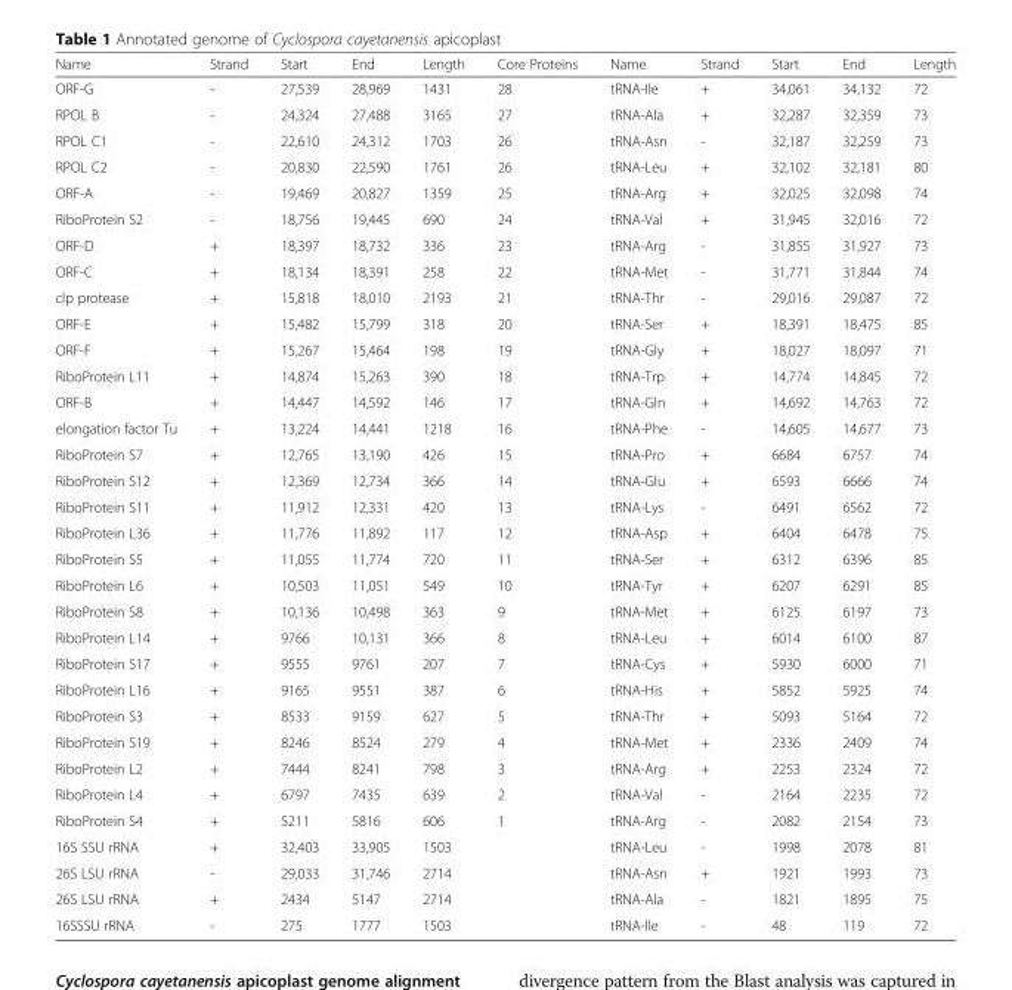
<table><thead><tr><td>Name</td><td>Strand</td><td>Start</td><td>End</td><td>Length</td><td>Core Proteins</td><td>Name</td><td>Strand</td><td>Start</td><td>End</td><td>Length</td></tr></thead><tbody><tr><td>ORF-G</td><td>-</td><td>27,539</td><td>28,969</td><td>1431</td><td>28</td><td>tRNA-Ile</td><td>+</td><td>34,061</td><td>34,132</td><td>72</td></tr><tr><td>RPOL B</td><td>-</td><td>24,324</td><td>27,488</td><td>3165</td><td>27</td><td>tRNA-Ala</td><td>+</td><td>32,287</td><td>32,359</td><td>73</td></tr><tr><td>RPOL C1</td><td>-</td><td>22,610</td><td>24,312</td><td>1703</td><td>26</td><td>tRNA-Asn</td><td>-</td><td>32,187</td><td>32,259</td><td>73</td></tr><tr><td>RPOL C2</td><td>-</td><td>20,830</td><td>22,590</td><td>1761</td><td>26</td><td>tRNA-Leu</td><td>+</td><td>32,102</td><td>32,181</td><td>80</td></tr><tr><td>ORF-A</td><td>-</td><td>19,469</td><td>20,827</td><td>1359</td><td>25</td><td>tRNA-Arg</td><td>+</td><td>32,025</td><td>32,098</td><td>74</td></tr><tr><td>RiboProtein S2</td><td>-</td><td>18,756</td><td>19,445</td><td>690</td><td>24</td><td>tRNA-Val</td><td>+</td><td>31,945</td><td>32,016</td><td>72</td></tr><tr><td>ORF-D</td><td>+</td><td>18,397</td><td>18,732</td><td>336</td><td>23</td><td>tRNA-Arg</td><td>-</td><td>31,855</td><td>31,927</td><td>73</td></tr><tr><td>ORF-C</td><td>+</td><td>18,134</td><td>18,391</td><td>258</td><td>22</td><td>tRNA-Met</td><td>-</td><td>31,771</td><td>31,844</td><td>74</td></tr><tr><td>clp protease</td><td>+</td><td>15,818</td><td>18,010</td><td>2193</td><td>21</td><td>tRNA-Thr</td><td>-</td><td>29,016</td><td>29,087</td><td>72</td></tr><tr><td>ORF-E</td><td>+</td><td>15,482</td><td>15,799</td><td>318</td><td>20</td><td>tRNA-Ser</td><td>+</td><td>18,391</td><td>18,475</td><td>85</td></tr><tr><td>ORF-F</td><td>+</td><td>15,267</td><td>15,464</td><td>198</td><td>19</td><td>tRNA-Gly</td><td>+</td><td>18,027</td><td>18,097</td><td>71</td></tr><tr><td>RiboProtein L11</td><td>+</td><td>14,874</td><td>15,263</td><td>390</td><td>18</td><td>tRNA-Trp</td><td>+</td><td>14,774</td><td>14,845</td><td>72</td></tr><tr><td>ORF-B</td><td>+</td><td>14,447</td><td>14,592</td><td>146</td><td>17</td><td>tRNA-Gln</td><td>+</td><td>14,692</td><td>14,763</td><td>72</td></tr><tr><td>elongation factor Tu</td><td>+</td><td>13,224</td><td>14,441</td><td>1218</td><td>16</td><td>tRNA-Phe</td><td>-</td><td>14,605</td><td>14,677</td><td>73</td></tr><tr><td>RiboProtein S7</td><td>+</td><td>12,765</td><td>13,190</td><td>426</td><td>15</td><td>tRNA-Pro</td><td>+</td><td>6684</td><td>6757</td><td>74</td></tr><tr><td>RiboProtein S12</td><td>+</td><td>12,369</td><td>12,734</td><td>366</td><td>14</td><td>tRNA-Glu</td><td>+</td><td>6593</td><td>6666</td><td>74</td></tr><tr><td>RiboProtein S11</td><td>+</td><td>11,912</td><td>12,331</td><td>420</td><td>13</td><td>tRNA-Lys</td><td>-</td><td>6491</td><td>6562</td><td>72</td></tr><tr><td>RiboProtein L36</td><td>+</td><td>11,776</td><td>11,892</td><td>117</td><td>12</td><td>tRNA-Asp</td><td>+</td><td>6404</td><td>6478</td><td>75</td></tr><tr><td>RiboProtein S5</td><td>+</td><td>11,055</td><td>11,774</td><td>720</td><td>11</td><td>tRNA-Ser</td><td>+</td><td>6312</td><td>6396</td><td>85</td></tr><tr><td>RiboProtein L6</td><td>+</td><td>10,503</td><td>11,051</td><td>549</td><td>10</td><td>tRNA-Tyr</td><td>+</td><td>6207</td><td>6291</td><td>85</td></tr><tr><td>RiboProtein S8</td><td>+</td><td>10,136</td><td>10,498</td><td>363</td><td>9</td><td>tRNA-Met</td><td>+</td><td>6125</td><td>6197</td><td>73</td></tr><tr><td>RiboProtein L14</td><td>+</td><td>9766</td><td>10,131</td><td>366</td><td>8</td><td>tRNA-Leu</td><td>+</td><td>6014</td><td>6100</td><td>87</td></tr><tr><td>RiboProtein S17</td><td>+</td><td>9555</td><td>9761</td><td>207</td><td>7</td><td>tRNA-Cys</td><td>+</td><td>5930</td><td>6000</td><td>71</td></tr><tr><td>RiboProtein L16</td><td>+</td><td>9165</td><td>9551</td><td>387</td><td>6</td><td>tRNA-His</td><td>+</td><td>5852</td><td>5925</td><td>74</td></tr><tr><td>RiboProtein S3</td><td>+</td><td>8533</td><td>9159</td><td>627</td><td>5</td><td>tRNA-Thr</td><td>+</td><td>5093</td><td>5164</td><td>72</td></tr><tr><td>RiboProtein S19</td><td>+</td><td>8246</td><td>8524</td><td>279</td><td>4</td><td>tRNA-Met</td><td>+</td><td>2336</td><td>2409</td><td>74</td></tr><tr><td>RiboProtein L2</td><td>+</td><td>7444</td><td>8241</td><td>798</td><td>3</td><td>tRNA-Arg</td><td>+</td><td>2253</td><td>2324</td><td>72</td></tr><tr><td>RiboProtein L4</td><td>+</td><td>6797</td><td>7435</td><td>639</td><td>2</td><td>tRNA-Val</td><td>-</td><td>2164</td><td>2235</td><td>72</td></tr><tr><td>RiboProtein S4</td><td>+</td><td>5211</td><td>5816</td><td>606</td><td>1</td><td>tRNA-Arg</td><td>-</td><td>2082</td><td>2154</td><td>73</td></tr><tr><td>16S SSU rRNA</td><td>+</td><td>32,403</td><td>33,905</td><td>1503</td><td></td><td>tRNA-Leu</td><td>-</td><td>1998</td><td>2078</td><td>81</td></tr><tr><td>26S LSU rRNA</td><td>-</td><td>29,033</td><td>31,746</td><td>2714</td><td></td><td>tRNA-Asn</td><td>+</td><td>1921</td><td>1993</td><td>73</td></tr><tr><td>26S LSU rRNA</td><td>+</td><td>2434</td><td>5147</td><td>2714</td><td></td><td>tRNA-Ala</td><td>-</td><td>1821</td><td>1895</td><td>75</td></tr><tr><td>16SSSU rRNA</td><td>-</td><td>275</td><td>1777</td><td>1503</td><td></td><td>tRNA-Ile</td><td>-</td><td>48</td><td>119</td><td>72</td></tr></tbody></table>